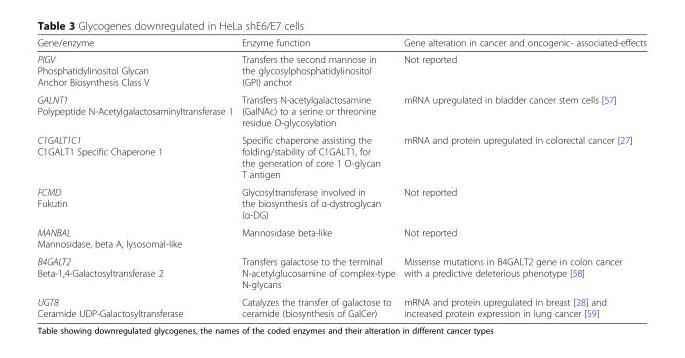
<table><thead><tr><td>Gene/enzyme</td><td>Enzyme function</td><td>Gene alteration in cancer and oncogenic- associated-effects</td></tr></thead><tbody><tr><td>PIGV Phosphatidylinositol Glycan Anchor Biosynthesis Class V</td><td>Transfers the second mannose in the glycosylphosphatidylinositol (GPI) anchor</td><td>Not reported</td></tr><tr><td>GALNT1 Polypeptide N-Acetylgalactosaminyltransferase 1</td><td>Transfers N-acetylgalactosamine (GalNAc) to a serine or threonine residue O-glycosylation</td><td>mRNA upregulated in bladder cancer stem cells [57]</td></tr><tr><td>C1GALT1C1 C1GALT1 Specific Chaperone 1</td><td>Specific chaperone assisting the folding/stability of C1GALT1, for the generation of core 1 O-glycan T antigen</td><td>mRNA and protein upregulated in colorectal cancer [27]</td></tr><tr><td>FCMD Fukutin</td><td>Glycosyltransferase involved in the biosynthesis of α-dystroglycan (α-DG)</td><td>Not reported</td></tr><tr><td>MANBAL Mannosidase, beta A, lysosomal-like</td><td>Mannosidase beta-like</td><td>Not reported</td></tr><tr><td>B4GALT2 Beta-1,4-Galactosyltransferase 2</td><td>Transfers galactose to the terminal N-acetylglucosamine of complex-type N-glycans</td><td>Missense mutations in B4GALT2 gene in colon cancer with a predictive deleterious phenotype [58]</td></tr><tr><td>UGT8 Ceramide UDP-Galactosyltransferase</td><td>Catalyzes the transfer of galactose to ceramide (biosynthesis of GalCer)</td><td>mRNA and protein upregulated in breast [28] and increased protein expression in lung cancer [59]</td></tr></tbody></table>